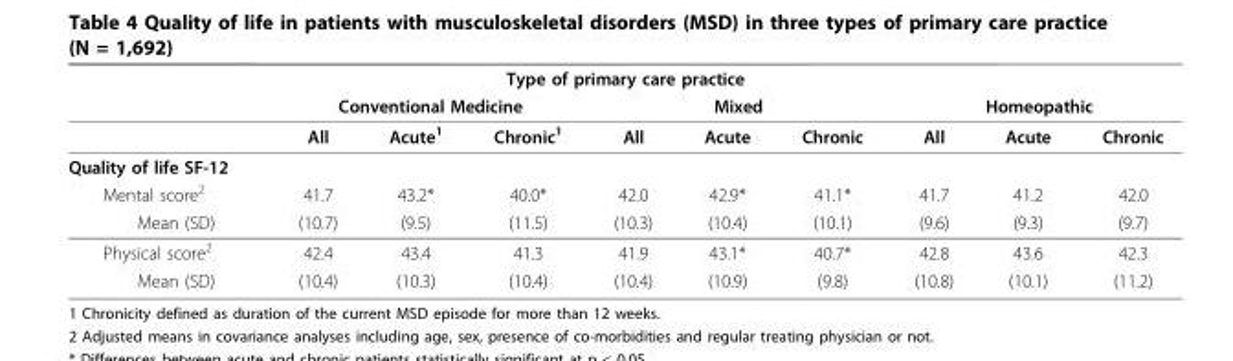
<table><thead><tr><td colspan="10">Type of primary care practice</td></tr><tr><td rowspan="2"></td><td colspan="3">Conventional Medicine</td><td colspan="3">Mixed</td><td colspan="3">Homeopathic</td></tr><tr><td>All</td><td>Acute<sup>1</sup></td><td>Chronic<sup>1</sup></td><td>All</td><td>Acute</td><td>Chronic</td><td>All</td><td>Acute</td><td>Chronic</td></tr></thead><tbody><tr><td colspan="10">Quality of life SF-12</td></tr><tr><td>Mental score<sup>2</sup></td><td>41.7</td><td>43.2*</td><td>40.0*</td><td>42.0</td><td>42.9*</td><td>41.1*</td><td>41.7</td><td>41.2</td><td>42.0</td></tr><tr><td>Mean (SD)</td><td>(10.7)</td><td>(9.5)</td><td>(11.5)</td><td>(10.3)</td><td>(10.4)</td><td>(10.1)</td><td>(9.6)</td><td>(9.3)</td><td>(9.7)</td></tr><tr><td>Physical score<sup>2</sup></td><td>42.4</td><td>43.4</td><td>41.3</td><td>41.9</td><td>43.1*</td><td>40.7*</td><td>42.8</td><td>43.6</td><td>42.3</td></tr><tr><td>Mean (SD)</td><td>(10.4)</td><td>(10.3)</td><td>(10.4)</td><td>(10.4)</td><td>(10.9)</td><td>(9.8)</td><td>(10.8)</td><td>(10.1)</td><td>(11.2)</td></tr></tbody></table>